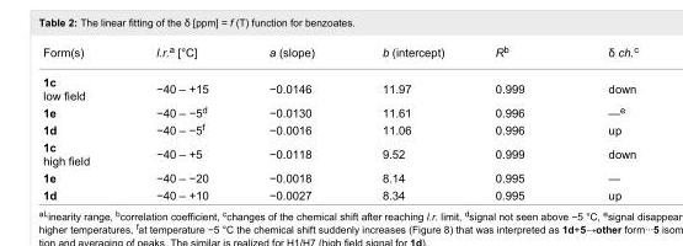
<table><tbody><tr><td>Form(s)</td><td>l.r.<sup>a</sup> [°C]</td><td>a (slope)</td><td>b (intercept)</td><td>R<sup>b</sup></td><td>δ ch.<sup>c</sup></td></tr><tr><td>1c low field</td><td>−40 – +15</td><td>−0.0146</td><td>11.97</td><td>0.999</td><td>down</td></tr><tr><td>1e</td><td>−40 – −5<sup>d</sup></td><td>−0.0130</td><td>11.61</td><td>0.996</td><td>—<sup>e</sup></td></tr><tr><td>1d</td><td>−40 – −5<sup>f</sup></td><td>−0.0016</td><td>11.06</td><td>0.996</td><td>up</td></tr><tr><td>1c high field</td><td>−40 – +5</td><td>−0.0118</td><td>9.52</td><td>0.999</td><td>down</td></tr><tr><td>1e</td><td>−40 – −20</td><td>−0.0018</td><td>8.14</td><td>0.995</td><td>—</td></tr><tr><td>1d</td><td>−40 – +10</td><td>−0.0027</td><td>8.34</td><td>0.995</td><td>up</td></tr></tbody></table>